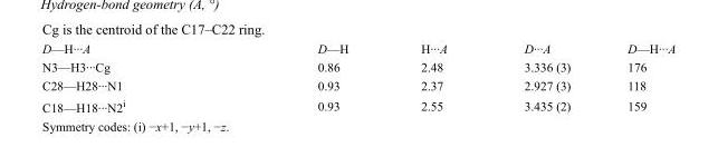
<table><tbody><tr><td>D—H···A</td><td>D—H</td><td>H···A</td><td>D···A</td><td>D—H···A</td></tr><tr><td>N3—H3···Cg</td><td>0.86</td><td>2.48</td><td>3.336 (3)</td><td>176</td></tr><tr><td>C28—H28···N1</td><td>0.93</td><td>2.37</td><td>2.927 (3)</td><td>118</td></tr><tr><td>C18—H18···N2<sup>i</sup></td><td>0.93</td><td>2.55</td><td>3.435 (2)</td><td>159</td></tr></tbody></table>